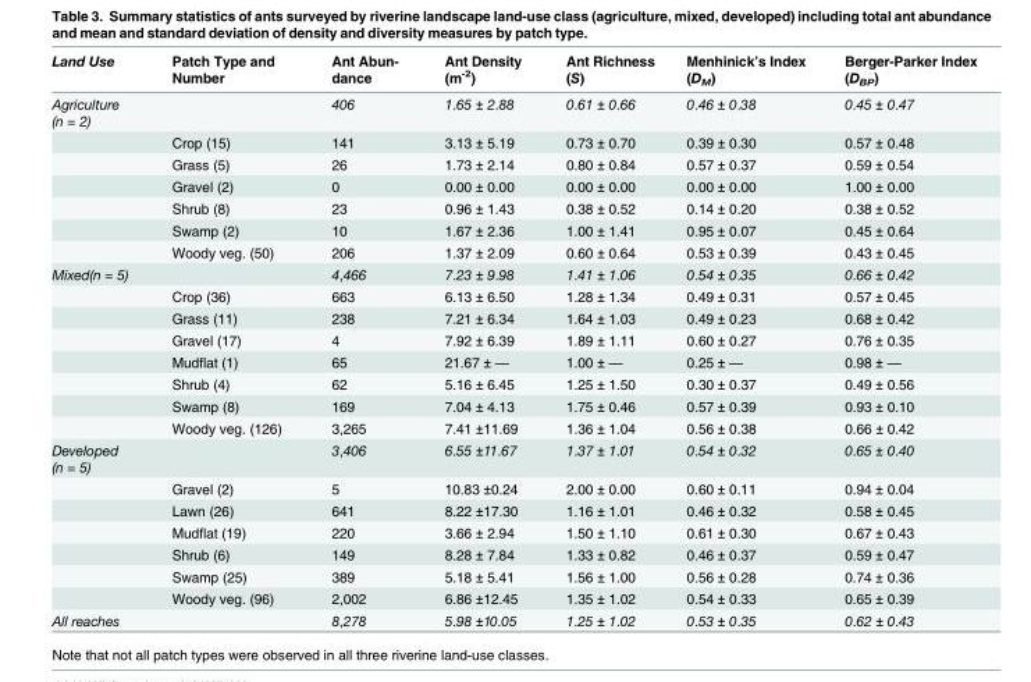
<table><thead><tr><td>Land Use</td><td>Patch Type and Number</td><td>Ant Abun- dance</td><td>Ant Density (m<sup>-2</sup>)</td><td>Ant Richness (S)</td><td>Menhinick’s Index (D<sub>M</sub>)</td><td>Berger-Parker Index (D<sub>BP</sub>)</td></tr></thead><tbody><tr><td rowspan="7">Agriculture (n = 2)</td><td></td><td>406</td><td>1.65 ± 2.88</td><td>0.61 ± 0.66</td><td>0.46 ± 0.38</td><td>0.45 ± 0.47</td></tr><tr><td>Crop (15)</td><td>141</td><td>3.13 ± 5.19</td><td>0.73 ± 0.70</td><td>0.39 ± 0.30</td><td>0.57 ± 0.48</td></tr><tr><td>Grass (5)</td><td>26</td><td>1.73 ± 2.14</td><td>0.80 ± 0.84</td><td>0.57 ± 0.37</td><td>0.59 ± 0.54</td></tr><tr><td>Gravel (2)</td><td>0</td><td>0.00 ± 0.00</td><td>0.00 ± 0.00</td><td>0.00 ± 0.00</td><td>1.00 ± 0.00</td></tr><tr><td>Shrub (8)</td><td>23</td><td>0.96 ± 1.43</td><td>0.38 ± 0.52</td><td>0.14 ± 0.20</td><td>0.38 ± 0.52</td></tr><tr><td>Swamp (2)</td><td>10</td><td>1.67 ± 2.36</td><td>1.00 ± 1.41</td><td>0.95 ± 0.07</td><td>0.45 ± 0.64</td></tr><tr><td>Woody veg. (50)</td><td>206</td><td>1.37 ± 2.09</td><td>0.60 ± 0.64</td><td>0.53 ± 0.39</td><td>0.43 ± 0.45</td></tr><tr><td rowspan="8">Mixed(n = 5)</td><td></td><td>4,466</td><td>7.23 ± 9.98</td><td>1.41 ± 1.06</td><td>0.54 ± 0.35</td><td>0.66 ± 0.42</td></tr><tr><td>Crop (36)</td><td>663</td><td>6.13 ± 6.50</td><td>1.28 ± 1.34</td><td>0.49 ± 0.31</td><td>0.57 ± 0.45</td></tr><tr><td>Grass (11)</td><td>238</td><td>7.21 ± 6.34</td><td>1.64 ± 1.03</td><td>0.49 ± 0.23</td><td>0.68 ± 0.42</td></tr><tr><td>Gravel (17)</td><td>4</td><td>7.92 ± 6.39</td><td>1.89 ± 1.11</td><td>0.60 ± 0.27</td><td>0.76 ± 0.35</td></tr><tr><td>Mudflat (1)</td><td>65</td><td>21.67 ± —</td><td>1.00 ± —</td><td>0.25 ± —</td><td>0.98 ± —</td></tr><tr><td>Shrub (4)</td><td>62</td><td>5.16 ± 6.45</td><td>1.25 ± 1.50</td><td>0.30 ± 0.37</td><td>0.49 ± 0.56</td></tr><tr><td>Swamp (8)</td><td>169</td><td>7.04 ± 4.13</td><td>1.75 ± 0.46</td><td>0.57 ± 0.39</td><td>0.93 ± 0.10</td></tr><tr><td>Woody veg. (126)</td><td>3,265</td><td>7.41 ±11.69</td><td>1.36 ± 1.04</td><td>0.56 ± 0.38</td><td>0.66 ± 0.42</td></tr><tr><td rowspan="7">Developed (n = 5)</td><td></td><td>3,406</td><td>6.55 ±11.67</td><td>1.37 ± 1.01</td><td>0.54 ± 0.32</td><td>0.65 ± 0.40</td></tr><tr><td>Gravel (2)</td><td>5</td><td>10.83 ±0.24</td><td>2.00 ± 0.00</td><td>0.60 ± 0.11</td><td>0.94 ± 0.04</td></tr><tr><td>Lawn (26)</td><td>641</td><td>8.22 ±17.30</td><td>1.16 ± 1.01</td><td>0.46 ± 0.32</td><td>0.58 ± 0.45</td></tr><tr><td>Mudflat (19)</td><td>220</td><td>3.66 ± 2.94</td><td>1.50 ± 1.10</td><td>0.61 ± 0.30</td><td>0.67 ± 0.43</td></tr><tr><td>Shrub (6)</td><td>149</td><td>8.28 ± 7.84</td><td>1.33 ± 0.82</td><td>0.46 ± 0.37</td><td>0.59 ± 0.47</td></tr><tr><td>Swamp (25)</td><td>389</td><td>5.18 ± 5.41</td><td>1.56 ± 1.00</td><td>0.56 ± 0.28</td><td>0.74 ± 0.36</td></tr><tr><td>Woody veg. (96)</td><td>2,002</td><td>6.86 ±12.45</td><td>1.35 ± 1.02</td><td>0.54 ± 0.33</td><td>0.65 ± 0.39</td></tr><tr><td>All reaches</td><td></td><td>8,278</td><td>5.98 ±10.05</td><td>1.25 ± 1.02</td><td>0.53 ± 0.35</td><td>0.62 ± 0.43</td></tr></tbody></table>